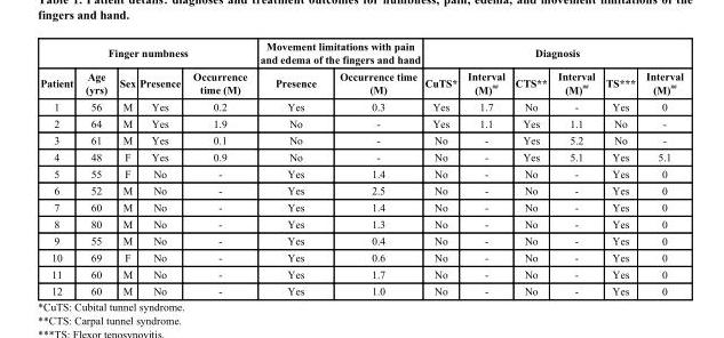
<table><thead><tr><td colspan="5">Finger numbness</td><td colspan="2">Movement limitations with pain and edema of the fingers and hand</td><td colspan="6">Diagnosis</td></tr><tr><td>Patient</td><td>Age (yrs)</td><td>Sex</td><td>Presence</td><td>Occurrence time (M)</td><td>Presence</td><td>Occurrence time (M)</td><td>CuTS*</td><td>Interval (M) <sup>##</sup></td><td>CTS**</td><td>Interval (M) <sup>##</sup></td><td>TS***</td><td>Interval (M) <sup>##</sup></td></tr></thead><tbody><tr><td>1</td><td>56</td><td>M</td><td>Yes</td><td>0.2</td><td>Yes</td><td>0.3</td><td>Yes</td><td>1.7</td><td>No</td><td>-</td><td>Yes</td><td>0</td></tr><tr><td>2</td><td>64</td><td>M</td><td>Yes</td><td>1.9</td><td>No</td><td>-</td><td>Yes</td><td>1.1</td><td>Yes</td><td>1.1</td><td>No</td><td>-</td></tr><tr><td>3</td><td>61</td><td>M</td><td>Yes</td><td>0.1</td><td>No</td><td>-</td><td>No</td><td>-</td><td>Yes</td><td>5.2</td><td>No</td><td>-</td></tr><tr><td>4</td><td>48</td><td>F</td><td>Yes</td><td>0.9</td><td>No</td><td>-</td><td>No</td><td>-</td><td>Yes</td><td>5.1</td><td>Yes</td><td>5.1</td></tr><tr><td>5</td><td>55</td><td>F</td><td>No</td><td>-</td><td>Yes</td><td>1.4</td><td>No</td><td>-</td><td>No</td><td>-</td><td>Yes</td><td>0</td></tr><tr><td>6</td><td>52</td><td>M</td><td>No</td><td>-</td><td>Yes</td><td>2.5</td><td>No</td><td>-</td><td>No</td><td>-</td><td>Yes</td><td>0</td></tr><tr><td>7</td><td>60</td><td>M</td><td>No</td><td>-</td><td>Yes</td><td>1.4</td><td>No</td><td>-</td><td>No</td><td>-</td><td>Yes</td><td>0</td></tr><tr><td>8</td><td>80</td><td>M</td><td>No</td><td>-</td><td>Yes</td><td>1.3</td><td>No</td><td>-</td><td>No</td><td>-</td><td>Yes</td><td>0</td></tr><tr><td>9</td><td>55</td><td>M</td><td>No</td><td>-</td><td>Yes</td><td>0.4</td><td>No</td><td>-</td><td>No</td><td>-</td><td>Yes</td><td>0</td></tr><tr><td>10</td><td>69</td><td>F</td><td>No</td><td>-</td><td>Yes</td><td>0.6</td><td>No</td><td>-</td><td>No</td><td>-</td><td>Yes</td><td>0</td></tr><tr><td>11</td><td>60</td><td>M</td><td>No</td><td>-</td><td>Yes</td><td>1.7</td><td>No</td><td>-</td><td>No</td><td>-</td><td>Yes</td><td>0</td></tr><tr><td>12</td><td>60</td><td>M</td><td>No</td><td>-</td><td>Yes</td><td>1.0</td><td>No</td><td>-</td><td>No</td><td>-</td><td>Yes</td><td>0</td></tr></tbody></table>